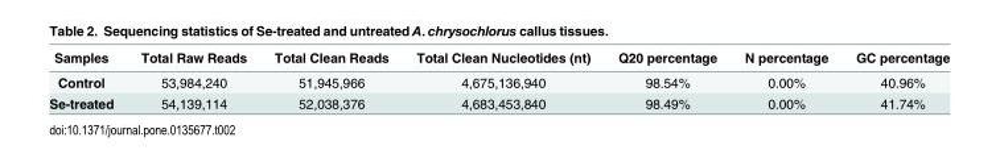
<table><thead><tr><td>Samples</td><td>Total Raw Reads</td><td>Total Clean Reads</td><td>Total Clean Nucleotides (nt)</td><td>Q20 percentage</td><td>N percentage</td><td>GC percentage</td></tr></thead><tbody><tr><td>Control</td><td>53,984,240</td><td>51,945,966</td><td>4,675,136,940</td><td>98.54%</td><td>0.00%</td><td>40.96%</td></tr><tr><td>Se-treated</td><td>54,139,114</td><td>52,038,376</td><td>4,683,453,840</td><td>98.49%</td><td>0.00%</td><td>41.74%</td></tr></tbody></table>